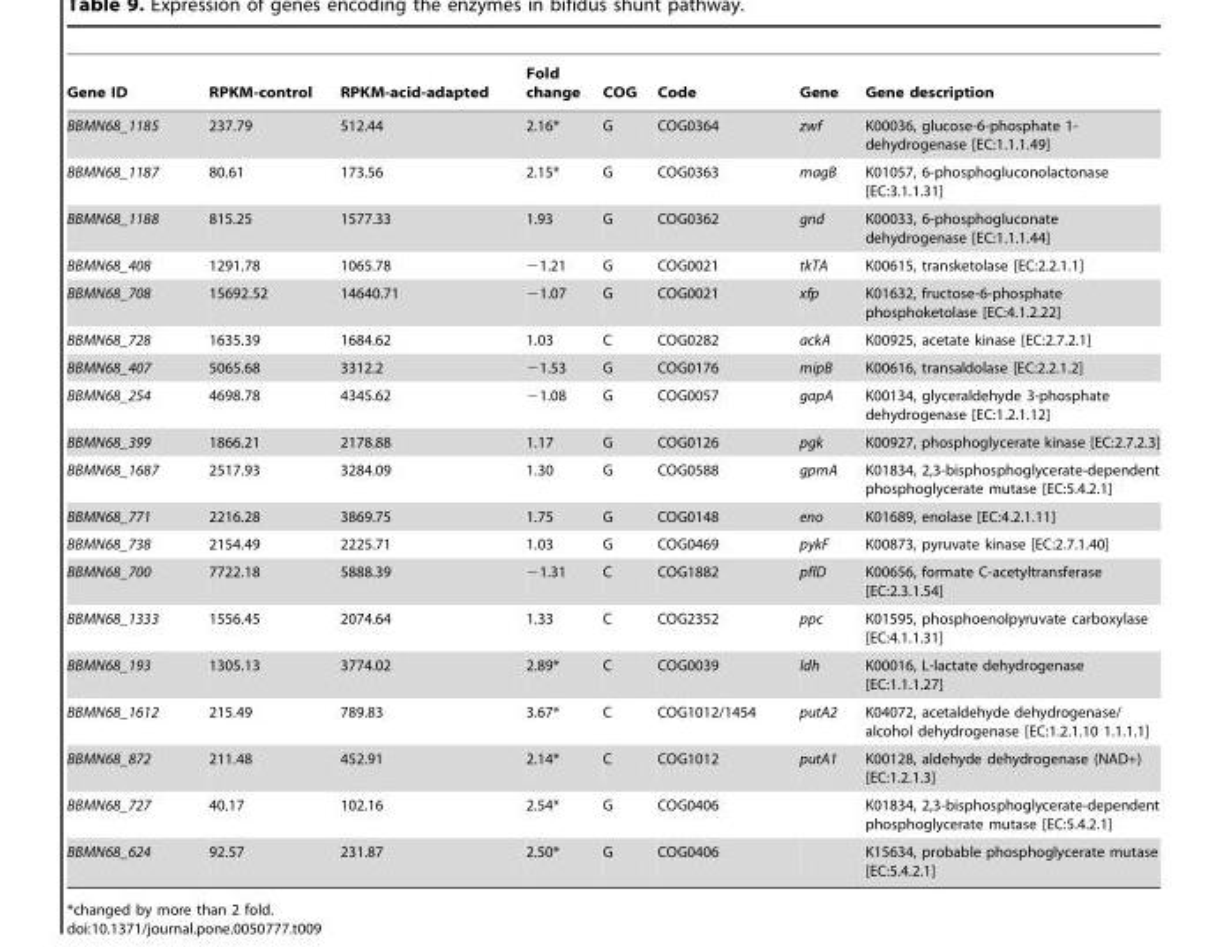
<table><thead><tr><td>Gene ID</td><td>RPKM-control</td><td>RPKM-acid-adapted</td><td>Fold change</td><td>COG</td><td>Code</td><td>Gene</td><td>Gene description</td></tr></thead><tbody><tr><td>BBMN68_1185</td><td>237.79</td><td>512.44</td><td>2.16*</td><td>G</td><td>COG0364</td><td>zwf</td><td>K00036, glucose-6-phosphate 1- dehydrogenase [EC:1.1.1.49]</td></tr><tr><td>BBMN68_1187</td><td>80.61</td><td>173.56</td><td>2.15*</td><td>G</td><td>COG0363</td><td>magB</td><td>K01057, 6-phosphogluconolactonase [EC:3.1.1.31]</td></tr><tr><td>BBMN68_1188</td><td>815.25</td><td>1577.33</td><td>1.93</td><td>G</td><td>COG0362</td><td>gnd</td><td>K00033, 6-phosphogluconate dehydrogenase [EC:1.1.1.44]</td></tr><tr><td>BBMN68_408</td><td>1291.78</td><td>1065.78</td><td>−1.21</td><td>G</td><td>COG0021</td><td>tkTA</td><td>K00615, transketolase [EC:2.2.1.1]</td></tr><tr><td>BBMN68_708</td><td>15692.52</td><td>14640.71</td><td>−1.07</td><td>G</td><td>COG0021</td><td>xfp</td><td>K01632, fructose-6-phosphate phosphoketolase [EC:4.1.2.22]</td></tr><tr><td>BBMN68_728</td><td>1635.39</td><td>1684.62</td><td>1.03</td><td>C</td><td>COG0282</td><td>ackA</td><td>K00925, acetate kinase [EC:2.7.2.1]</td></tr><tr><td>BBMN68_407</td><td>5065.68</td><td>3312.2</td><td>−1.53</td><td>G</td><td>COG0176</td><td>mipB</td><td>K00616, transaldolase [EC:2.2.1.2]</td></tr><tr><td>BBMN68_254</td><td>4698.78</td><td>4345.62</td><td>−1.08</td><td>G</td><td>COG0057</td><td>gapA</td><td>K00134, glyceraldehyde 3-phosphate dehydrogenase [EC:1.2.1.12]</td></tr><tr><td>BBMN68_399</td><td>1866.21</td><td>2178.88</td><td>1.17</td><td>G</td><td>COG0126</td><td>pgk</td><td>K00927, phosphoglycerate kinase [EC:2.7.2.3]</td></tr><tr><td>BBMN68_1687</td><td>2517.93</td><td>3284.09</td><td>1.30</td><td>G</td><td>COG0588</td><td>gpmA</td><td>K01834, 2,3-bisphosphoglycerate-dependent phosphoglycerate mutase [EC:5.4.2.1]</td></tr><tr><td>BBMN68_771</td><td>2216.28</td><td>3869.75</td><td>1.75</td><td>G</td><td>COG0148</td><td>eno</td><td>K01689, enolase [EC:4.2.1.11]</td></tr><tr><td>BBMN68_738</td><td>2154.49</td><td>2225.71</td><td>1.03</td><td>G</td><td>COG0469</td><td>pykF</td><td>K00873, pyruvate kinase [EC:2.7.1.40]</td></tr><tr><td>BBMN68_700</td><td>7722.18</td><td>5888.39</td><td>−1.31</td><td>C</td><td>COG1882</td><td>pflD</td><td>K00656, formate C-acetyltransferase [EC:2.3.1.54]</td></tr><tr><td>BBMN68_1333</td><td>1556.45</td><td>2074.64</td><td>1.33</td><td>C</td><td>COG2352</td><td>ppc</td><td>K01595, phosphoenolpyruvate carboxylase [EC:4.1.1.31]</td></tr><tr><td>BBMN68_193</td><td>1305.13</td><td>3774.02</td><td>2.89*</td><td>C</td><td>COG0039</td><td>ldh</td><td>K00016, L-lactate dehydrogenase [EC:1.1.1.27]</td></tr><tr><td>BBMN68_1612</td><td>215.49</td><td>789.83</td><td>3.67*</td><td>C</td><td>COG1012/1454</td><td>putA2</td><td>K04072, acetaldehyde dehydrogenase/ alcohol dehydrogenase [EC:1.2.1.10 1.1.1.1]</td></tr><tr><td>BBMN68_872</td><td>211.48</td><td>452.91</td><td>2.14*</td><td>C</td><td>COG1012</td><td>putA1</td><td>K00128, aldehyde dehydrogenase (NAD+) [EC:1.2.1.3]</td></tr><tr><td>BBMN68_727</td><td>40.17</td><td>102.16</td><td>2.54*</td><td>G</td><td>COG0406</td><td></td><td>K01834, 2,3-bisphosphoglycerate-dependent phosphoglycerate mutase [EC:5.4.2.1]</td></tr><tr><td>BBMN68_624</td><td>92.57</td><td>231.87</td><td>2.50*</td><td>G</td><td>COG0406</td><td></td><td>K15634, probable phosphoglycerate mutase [EC:5.4.2.1]</td></tr></tbody></table>